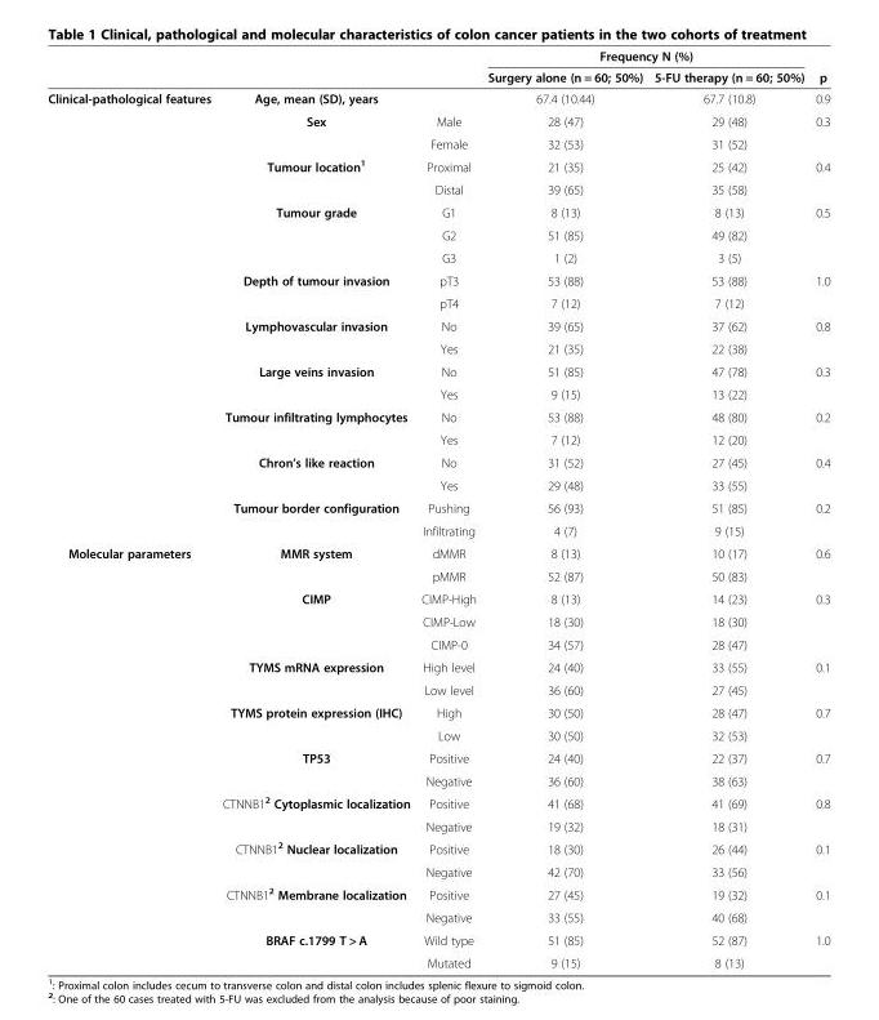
<table><thead><tr><td rowspan="2"></td><td rowspan="2"></td><td rowspan="2"></td><td colspan="2">Frequency N (%)</td><td rowspan="2">p</td></tr><tr><td>Surgery alone (n = 60; 50%)</td><td>5-FU therapy (n = 60; 50%)</td></tr></thead><tbody><tr><td rowspan="20">Clinical-pathological features</td><td>Age, mean (SD), years</td><td></td><td>67.4 (10.44)</td><td>67.7 (10.8)</td><td>0.9</td></tr><tr><td rowspan="2">Sex</td><td>Male</td><td>28 (47)</td><td>29 (48)</td><td rowspan="2">0.3</td></tr><tr><td>Female</td><td>32 (53)</td><td>31 (52)</td></tr><tr><td rowspan="2">Tumour location<sup>1</sup></td><td>Proximal</td><td>21 (35)</td><td>25 (42)</td><td rowspan="2">0.4</td></tr><tr><td>Distal</td><td>39 (65)</td><td>35 (58)</td></tr><tr><td rowspan="3">Tumour grade</td><td>G1</td><td>8 (13)</td><td>8 (13)</td><td rowspan="3">0.5</td></tr><tr><td>G2</td><td>51 (85)</td><td>49 (82)</td></tr><tr><td>G3</td><td>1 (2)</td><td>3 (5)</td></tr><tr><td rowspan="2">Depth of tumour invasion</td><td>pT3</td><td>53 (88)</td><td>53 (88)</td><td rowspan="2">1.0</td></tr><tr><td>pT4</td><td>7 (12)</td><td>7 (12)</td></tr><tr><td rowspan="2">Lymphovascular invasion</td><td>No</td><td>39 (65)</td><td>37 (62)</td><td rowspan="2">0.8</td></tr><tr><td>Yes</td><td>21 (35)</td><td>22 (38)</td></tr><tr><td rowspan="2">Large veins invasion</td><td>No</td><td>51 (85)</td><td>47 (78)</td><td rowspan="2">0.3</td></tr><tr><td>Yes</td><td>9 (15)</td><td>13 (22)</td></tr><tr><td rowspan="2">Tumour infiltrating lymphocytes</td><td>No</td><td>53 (88)</td><td>48 (80)</td><td rowspan="2">0.2</td></tr><tr><td>Yes</td><td>7 (12)</td><td>12 (20)</td></tr><tr><td rowspan="2">Chron’s like reaction</td><td>No</td><td>31 (52)</td><td>27 (45)</td><td rowspan="2">0.4</td></tr><tr><td>Yes</td><td>29 (48)</td><td>33 (55)</td></tr><tr><td rowspan="2">Tumour border configuration</td><td>Pushing</td><td>56 (93)</td><td>51 (85)</td><td rowspan="2">0.2</td></tr><tr><td>Infiltrating</td><td>4 (7)</td><td>9 (15)</td></tr><tr><td rowspan="19">Molecular parameters</td><td rowspan="2">MMR system</td><td>dMMR</td><td>8 (13)</td><td>10 (17)</td><td rowspan="2">0.6</td></tr><tr><td>pMMR</td><td>52 (87)</td><td>50 (83)</td></tr><tr><td rowspan="3">CIMP</td><td>CIMP-High</td><td>8 (13)</td><td>14 (23)</td><td rowspan="3">0.3</td></tr><tr><td>CIMP-Low</td><td>18 (30)</td><td>18 (30)</td></tr><tr><td>CIMP-0</td><td>34 (57)</td><td>28 (47)</td></tr><tr><td rowspan="2">TYMS mRNA expression</td><td>High level</td><td>24 (40)</td><td>33 (55)</td><td rowspan="2">0.1</td></tr><tr><td>Low level</td><td>36 (60)</td><td>27 (45)</td></tr><tr><td rowspan="2">TYMS protein expression (IHC)</td><td>High</td><td>30 (50)</td><td>28 (47)</td><td rowspan="2">0.7</td></tr><tr><td>Low</td><td>30 (50)</td><td>32 (53)</td></tr><tr><td rowspan="2">TP53</td><td>Positive</td><td>24 (40)</td><td>22 (37)</td><td rowspan="2">0.7</td></tr><tr><td>Negative</td><td>36 (60)</td><td>38 (63)</td></tr><tr><td rowspan="2">CTNNB1<sup>2</sup> Cytoplasmic localization</td><td>Positive</td><td>41 (68)</td><td>41 (69)</td><td rowspan="2">0.8</td></tr><tr><td>Negative</td><td>19 (32)</td><td>18 (31)</td></tr><tr><td rowspan="2">CTNNB1<sup>2</sup> Nuclear localization</td><td>Positive</td><td>18 (30)</td><td>26 (44)</td><td rowspan="2">0.1</td></tr><tr><td>Negative</td><td>42 (70)</td><td>33 (56)</td></tr><tr><td rowspan="2">CTNNB1<sup>2</sup> Membrane localization</td><td>Positive</td><td>27 (45)</td><td>19 (32)</td><td rowspan="2">0.1</td></tr><tr><td>Negative</td><td>33 (55)</td><td>40 (68)</td></tr><tr><td>BRAF c.1799 T &gt; A</td><td>Wild type</td><td>51 (85)</td><td>52 (87)</td><td>1.0</td></tr><tr><td></td><td>Mutated</td><td>9 (15)</td><td>8 (13)</td><td></td></tr></tbody></table>